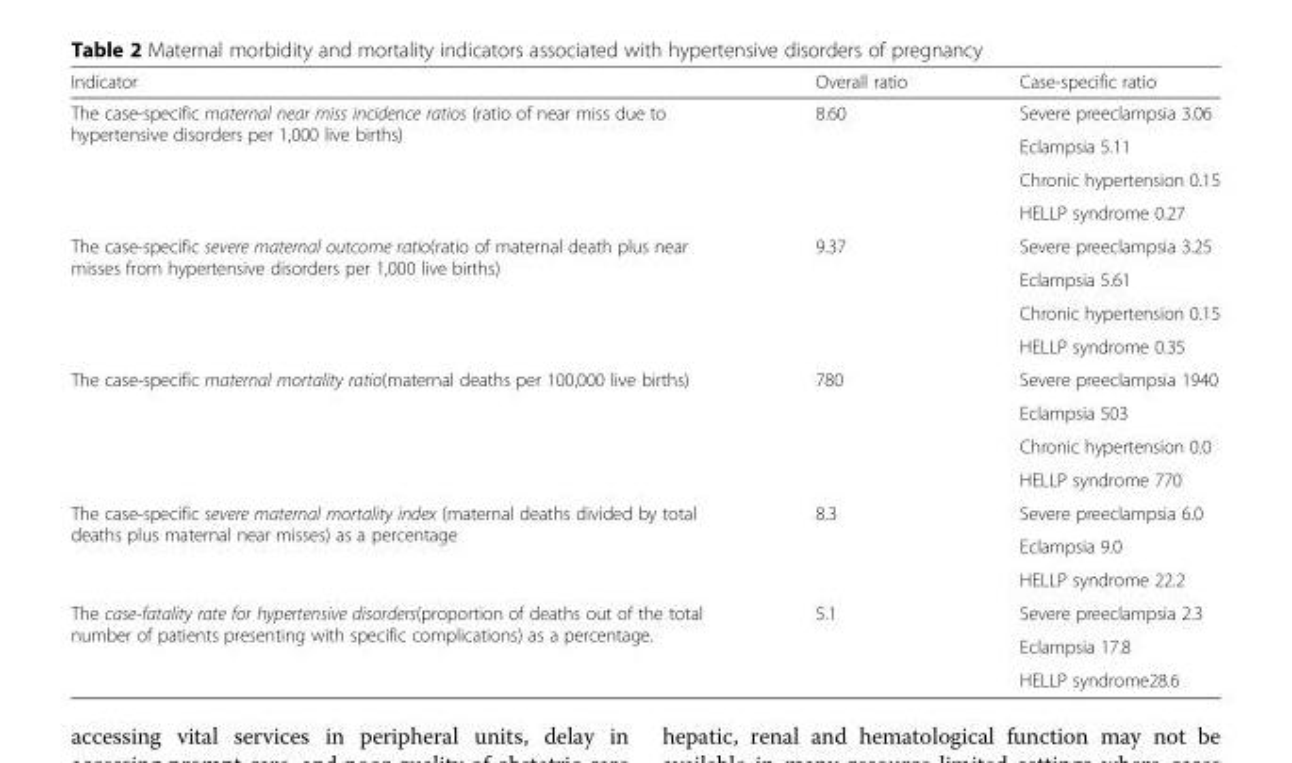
<table><thead><tr><td>Indicator</td><td>Overall ratio</td><td>Case-specific ratio</td></tr></thead><tbody><tr><td rowspan="4">The case-specific maternal near miss incidence ratios (ratio of near miss due to hypertensive disorders per 1,000 live births)</td><td rowspan="4">8.60</td><td>Severe preeclampsia 3.06</td></tr><tr><td>Eclampsia 5.11</td></tr><tr><td>Chronic hypertension 0.15</td></tr><tr><td>HELLP syndrome 0.27</td></tr><tr><td rowspan="4">The case-specific severe maternal outcome ratio(ratio of maternal death plus near misses from hypertensive disorders per 1,000 live births)</td><td rowspan="4">9.37</td><td>Severe preeclampsia 3.25</td></tr><tr><td>Eclampsia 5.61</td></tr><tr><td>Chronic hypertension 0.15</td></tr><tr><td>HELLP syndrome 0.35</td></tr><tr><td rowspan="4">The case-specific maternal mortality ratio(maternal deaths per 100,000 live births)</td><td rowspan="4">780</td><td>Severe preeclampsia 1940</td></tr><tr><td>Eclampsia 503</td></tr><tr><td>Chronic hypertension 0.0</td></tr><tr><td>HELLP syndrome 770</td></tr><tr><td rowspan="3">The case-specific severe maternal mortality index (maternal deaths divided by total deaths plus maternal near misses) as a percentage</td><td rowspan="3">8.3</td><td>Severe preeclampsia 6.0</td></tr><tr><td>Eclampsia 9.0</td></tr><tr><td>HELLP syndrome 22.2</td></tr><tr><td rowspan="3">The case-fatality rate for hypertensive disorders(proportion of deaths out of the total number of patients presenting with specific complications) as a percentage.</td><td rowspan="3">5.1</td><td>Severe preeclampsia 2.3</td></tr><tr><td>Eclampsia 17.8</td></tr><tr><td>HELLP syndrome28.6</td></tr></tbody></table>